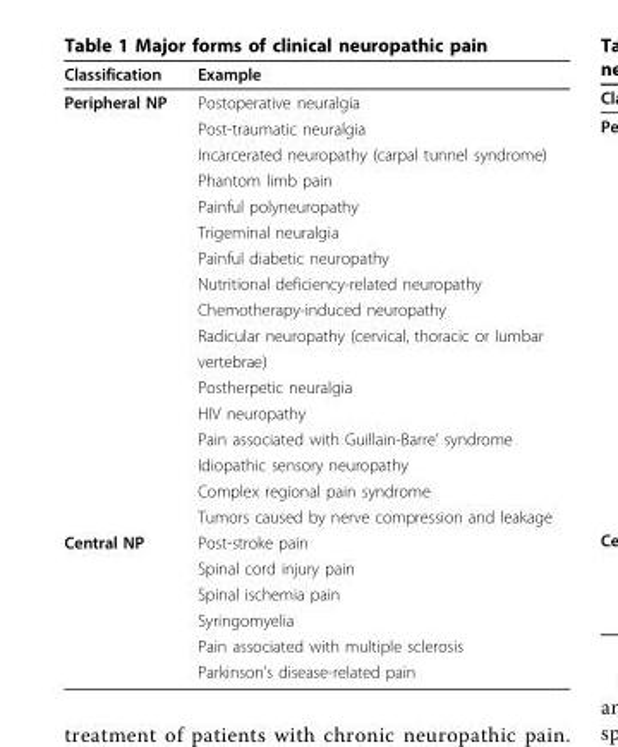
<table><thead><tr><td>Classification</td><td>Example</td></tr></thead><tbody><tr><td rowspan="17">Peripheral NP</td><td>Postoperative neuralgia</td></tr><tr><td>Post-traumatic neuralgia</td></tr><tr><td>Incarcerated neuropathy (carpal tunnel syndrome)</td></tr><tr><td>Phantom limb pain</td></tr><tr><td>Painful polyneuropathy</td></tr><tr><td>Trigeminal neuralgia</td></tr><tr><td>Painful diabetic neuropathy</td></tr><tr><td>Nutritional deficiency-related neuropathy</td></tr><tr><td>Chemotherapy-induced neuropathy</td></tr><tr><td>Radicular neuropathy (cervical, thoracic or lumbar</td></tr><tr><td>vertebrae)</td></tr><tr><td>Postherpetic neuralgia</td></tr><tr><td>HIV neuropathy</td></tr><tr><td>Pain associated with Guillain-Barre’ syndrome</td></tr><tr><td>Idiopathic sensory neuropathy</td></tr><tr><td>Complex regional pain syndrome</td></tr><tr><td>Tumors caused by nerve compression and leakage</td></tr><tr><td rowspan="6">Central NP</td><td>Post-stroke pain</td></tr><tr><td>Spinal cord injury pain</td></tr><tr><td>Spinal ischemia pain</td></tr><tr><td>Syringomyelia</td></tr><tr><td>Pain associated with multiple sclerosis</td></tr><tr><td>Parkinson’s disease-related pain</td></tr></tbody></table>